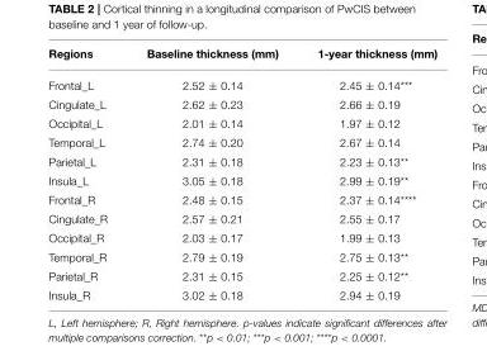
<table><thead><tr><td>Regions</td><td>Baseline thickness (mm)</td><td>1-year thickness (mm)</td></tr></thead><tbody><tr><td>Frontal_L</td><td>2.52 ± 0.14</td><td>2.45 ± 0.14***</td></tr><tr><td>Cingulate_L</td><td>2.62 ± 0.23</td><td>2.66 ± 0.19</td></tr><tr><td>Occipital_L</td><td>2.01 ± 0.14</td><td>1.97 ± 0.12</td></tr><tr><td>Temporal_L</td><td>2.74 ± 0.20</td><td>2.67 ± 0.14</td></tr><tr><td>Parietal_L</td><td>2.31 ± 0.18</td><td>2.23 ± 0.13**</td></tr><tr><td>Insula_L</td><td>3.05 ± 0.18</td><td>2.99 ± 0.19**</td></tr><tr><td>Frontal_R</td><td>2.48 ± 0.15</td><td>2.37 ± 0.14****</td></tr><tr><td>Cingulate_R</td><td>2.57 ± 0.21</td><td>2.55 ± 0.17</td></tr><tr><td>Occipital_R</td><td>2.03 ± 0.17</td><td>1.99 ± 0.13</td></tr><tr><td>Temporal_R</td><td>2.79 ± 0.19</td><td>2.75 ± 0.13**</td></tr><tr><td>Parietal_R</td><td>2.31 ± 0.15</td><td>2.25 ± 0.12**</td></tr><tr><td>Insula_R</td><td>3.02 ± 0.18</td><td>2.94 ± 0.19</td></tr></tbody></table>